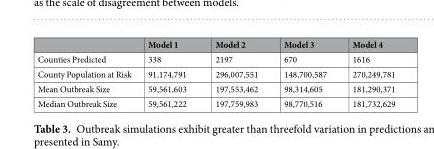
<table><thead><tr><td></td><td>Model 1</td><td>Model 2</td><td>Model 3</td><td>Model 4</td></tr></thead><tbody><tr><td>Counties Predicted</td><td>338</td><td>2197</td><td>670</td><td>1616</td></tr><tr><td>County Population at Risk</td><td>91,174,791</td><td>296,007,551</td><td>148,700,587</td><td>270,249,781</td></tr><tr><td>Mean Outbreak Size</td><td>59,561,603</td><td>197,553,462</td><td>98,314,605</td><td>181,290,371</td></tr><tr><td>Median Outbreak Size</td><td>59,561,222</td><td>197,759,983</td><td>98,770,516</td><td>181,732,629</td></tr></tbody></table>